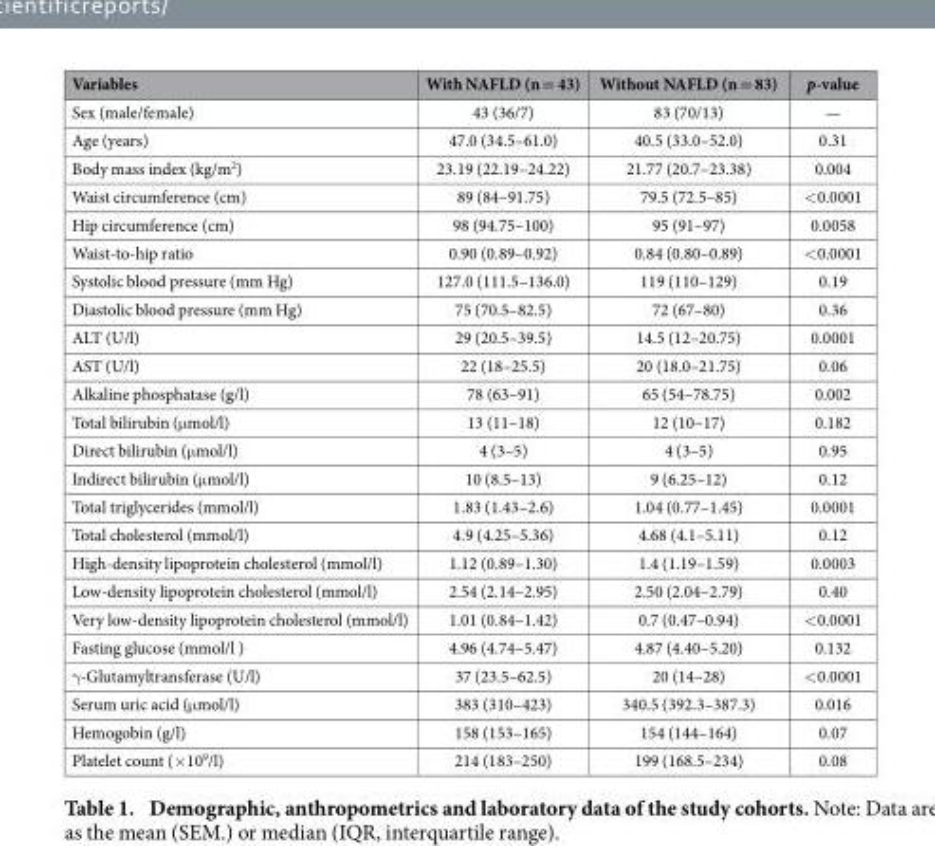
<table><thead><tr><td>Variables</td><td>With NAFLD (n = 43)</td><td>Without NAFLD (n = 83)</td><td>p-value</td></tr></thead><tbody><tr><td>Sex (male/female)</td><td>43 (36/7)</td><td>83 (70/13)</td><td>—</td></tr><tr><td>Age (years)</td><td>47.0 (34.5–61.0)</td><td>40.5 (33.0–52.0)</td><td>0.31</td></tr><tr><td>Body mass index (kg/m<sup>2</sup>)</td><td>23.19 (22.19–24.22)</td><td>21.77 (20.7–23.38)</td><td>0.004</td></tr><tr><td>Waist circumference (cm)</td><td>89 (84–91.75)</td><td>79.5 (72.5–85)</td><td>&lt; 0.0001</td></tr><tr><td>Hip circumference (cm)</td><td>98 (94.75–100)</td><td>95 (91–97)</td><td>0.0058</td></tr><tr><td>Waist-to-hip ratio</td><td>0.90 (0.89–0.92)</td><td>0.84 (0.80–0.89)</td><td>&lt; 0.0001</td></tr><tr><td>Systolic blood pressure (mm Hg)</td><td>127.0 (111.5–136.0)</td><td>119 (110–129)</td><td>0.19</td></tr><tr><td>Diastolic blood pressure (mm Hg)</td><td>75 (70.5–82.5)</td><td>72 (67–80)</td><td>0.36</td></tr><tr><td>ALT (U/l)</td><td>29 (20.5–39.5)</td><td>14.5 (12–20.75)</td><td>0.0001</td></tr><tr><td>AST (U/l)</td><td>22 (18–25.5)</td><td>20 (18.0–21.75)</td><td>0.06</td></tr><tr><td>Alkaline phosphatase (g/l)</td><td>78 (63–91)</td><td>65 (54–78.75)</td><td>0.002</td></tr><tr><td>Total bilirubin (μ mol/l)</td><td>13 (11–18)</td><td>12 (10–17)</td><td>0.182</td></tr><tr><td>Direct bilirubin (μ mol/l)</td><td>4 (3–5)</td><td>4 (3–5)</td><td>0.95</td></tr><tr><td>Indirect bilirubin (μ mol/l)</td><td>10 (8.5–13)</td><td>9 (6.25–12)</td><td>0.12</td></tr><tr><td>Total triglycerides (mmol/l)</td><td>1.83 (1.43–2.6)</td><td>1.04 (0.77–1.45)</td><td>0.0001</td></tr><tr><td>Total cholesterol (mmol/l)</td><td>4.9 (4.25–5.36)</td><td>4.68 (4.1–5.11)</td><td>0.12</td></tr><tr><td>High-density lipoprotein cholesterol (mmol/l)</td><td>1.12 (0.89–1.30)</td><td>1.4 (1.19–1.59)</td><td>0.0003</td></tr><tr><td>Low-density lipoprotein cholesterol (mmol/l)</td><td>2.54 (2.14–2.95)</td><td>2.50 (2.04–2.79)</td><td>0.40</td></tr><tr><td>Very low-density lipoprotein cholesterol (mmol/l)</td><td>1.01 (0.84–1.42)</td><td>0.7 (0.47–0.94)</td><td>&lt; 0.0001</td></tr><tr><td>Fasting glucose (mmol/l )</td><td>4.96 (4.74–5.47)</td><td>4.87 (4.40–5.20)</td><td>0.132</td></tr><tr><td>γ -Glutamyltransferase (U/l)</td><td>37 (23.5–62.5)</td><td>20 (14–28)</td><td>&lt; 0.0001</td></tr><tr><td>Serum uric acid (μ mol/l)</td><td>383 (310–423)</td><td>340.5 (392.3–387.3)</td><td>0.016</td></tr><tr><td>Hemogobin (g/l)</td><td>158 (153–165)</td><td>154 (144–164)</td><td>0.07</td></tr><tr><td>Platelet count (× 10<sup>9</sup>/l)</td><td>214 (183–250)</td><td>199 (168.5–234)</td><td>0.08</td></tr></tbody></table>